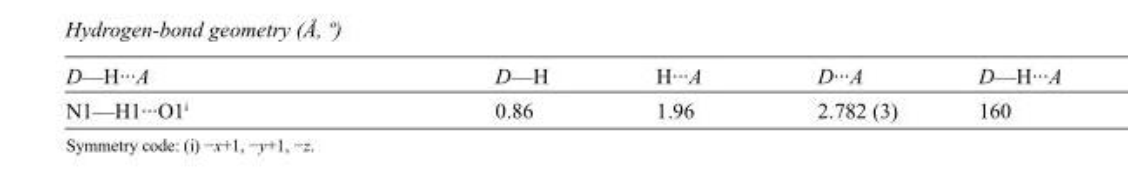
<table><tbody><tr><td>D—H···A</td><td>D—H</td><td>H···A</td><td>D···A</td><td>D—H···A</td></tr><tr><td>N1—H1···O1<sup>i</sup></td><td>0.86</td><td>1.96</td><td>2.782 (3)</td><td>160</td></tr></tbody></table>